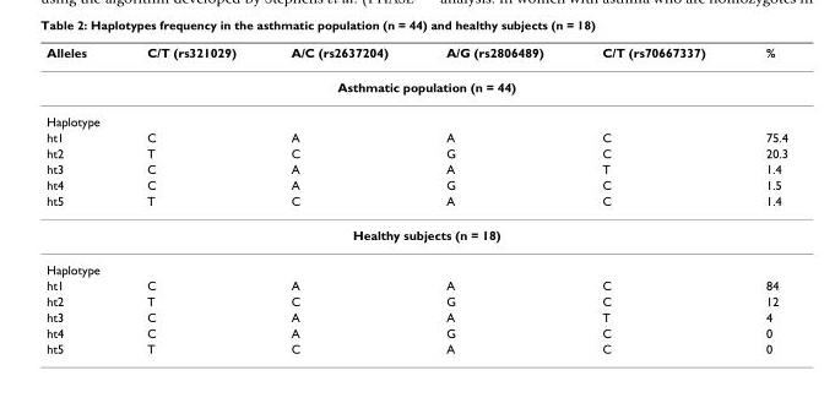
<table><thead><tr><td>Alleles</td><td>C/T (rs321029)</td><td>A/C (rs2637204)</td><td>A/G (rs2806489)</td><td>C/T (rs70667337)</td><td>%</td></tr></thead><tbody><tr><td colspan="6">Asthmatic population (n = 44)</td></tr><tr><td colspan="6">Haplotype</td></tr><tr><td>ht1</td><td>C</td><td>A</td><td>A</td><td>C</td><td>75.4</td></tr><tr><td>ht2</td><td>T</td><td>C</td><td>G</td><td>C</td><td>20.3</td></tr><tr><td>ht3</td><td>C</td><td>A</td><td>A</td><td>T</td><td>1.4</td></tr><tr><td>ht4</td><td>C</td><td>A</td><td>G</td><td>C</td><td>1.5</td></tr><tr><td>ht5</td><td>T</td><td>C</td><td>A</td><td>C</td><td>1.4</td></tr><tr><td colspan="6">Healthy subjects (n = 18)</td></tr><tr><td colspan="6">Haplotype</td></tr><tr><td>ht1</td><td>C</td><td>A</td><td>A</td><td>C</td><td>84</td></tr><tr><td>ht2</td><td>T</td><td>C</td><td>G</td><td>C</td><td>12</td></tr><tr><td>ht3</td><td>C</td><td>A</td><td>A</td><td>T</td><td>4</td></tr><tr><td>ht4</td><td>C</td><td>A</td><td>G</td><td>C</td><td>0</td></tr><tr><td>ht5</td><td>T</td><td>C</td><td>A</td><td>C</td><td>0</td></tr></tbody></table>